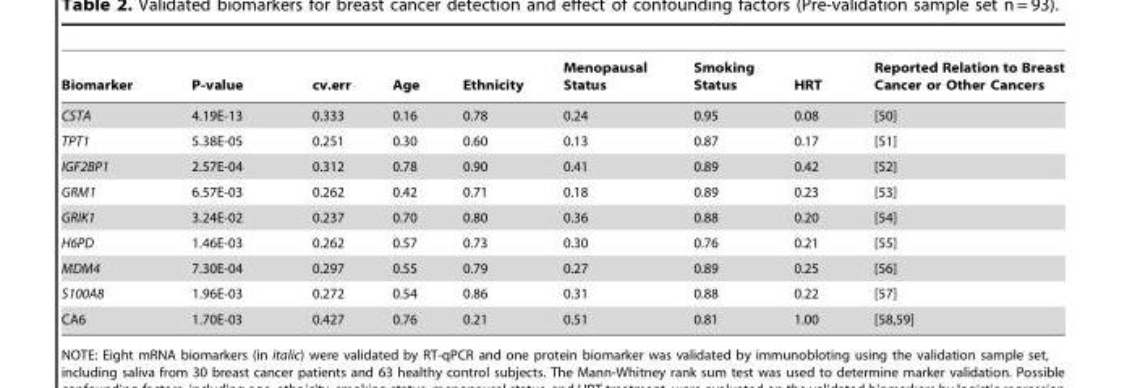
<table><thead><tr><td>Biomarker</td><td>P-value</td><td>cv.err</td><td>Age</td><td>Ethnicity</td><td>Menopausal Status</td><td>Smoking Status</td><td>HRT</td><td>Reported Relation to Breast Cancer or Other Cancers</td></tr></thead><tbody><tr><td>CSTA</td><td>4.19E-13</td><td>0.333</td><td>0.16</td><td>0.78</td><td>0.24</td><td>0.95</td><td>0.08</td><td>[50]</td></tr><tr><td>TPT1</td><td>5.38E-05</td><td>0.251</td><td>0.30</td><td>0.60</td><td>0.13</td><td>0.87</td><td>0.17</td><td>[51]</td></tr><tr><td>IGF2BP1</td><td>2.57E-04</td><td>0.312</td><td>0.78</td><td>0.90</td><td>0.41</td><td>0.89</td><td>0.42</td><td>[52]</td></tr><tr><td>GRM1</td><td>6.57E-03</td><td>0.262</td><td>0.42</td><td>0.71</td><td>0.18</td><td>0.89</td><td>0.23</td><td>[53]</td></tr><tr><td>GRIK1</td><td>3.24E-02</td><td>0.237</td><td>0.70</td><td>0.80</td><td>0.36</td><td>0.88</td><td>0.20</td><td>[54]</td></tr><tr><td>H6PD</td><td>1.46E-03</td><td>0.262</td><td>0.57</td><td>0.73</td><td>0.30</td><td>0.76</td><td>0.21</td><td>[55]</td></tr><tr><td>MDM4</td><td>7.30E-04</td><td>0.297</td><td>0.55</td><td>0.79</td><td>0.27</td><td>0.89</td><td>0.25</td><td>[56]</td></tr><tr><td>S100A8</td><td>1.96E-03</td><td>0.272</td><td>0.54</td><td>0.86</td><td>0.31</td><td>0.88</td><td>0.22</td><td>[57]</td></tr><tr><td>CA6</td><td>1.70E-03</td><td>0.427</td><td>0.76</td><td>0.21</td><td>0.51</td><td>0.81</td><td>1.00</td><td>[58,59]</td></tr></tbody></table>